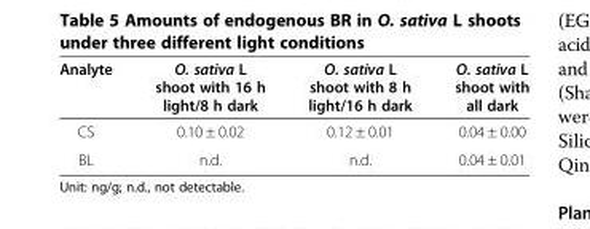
<table><thead><tr><td>Analyte</td><td>O. sativa L shoot with 16 h light/8 h dark</td><td>O. sativa L shoot with 8 h light/16 h dark</td><td>O. sativa L shoot with all dark</td></tr></thead><tbody><tr><td>CS</td><td>0.10 ± 0.02</td><td>0.12 ± 0.01</td><td>0.04 ± 0.00</td></tr><tr><td>BL</td><td>n.d.</td><td>n.d.</td><td>0.04 ± 0.01</td></tr></tbody></table>